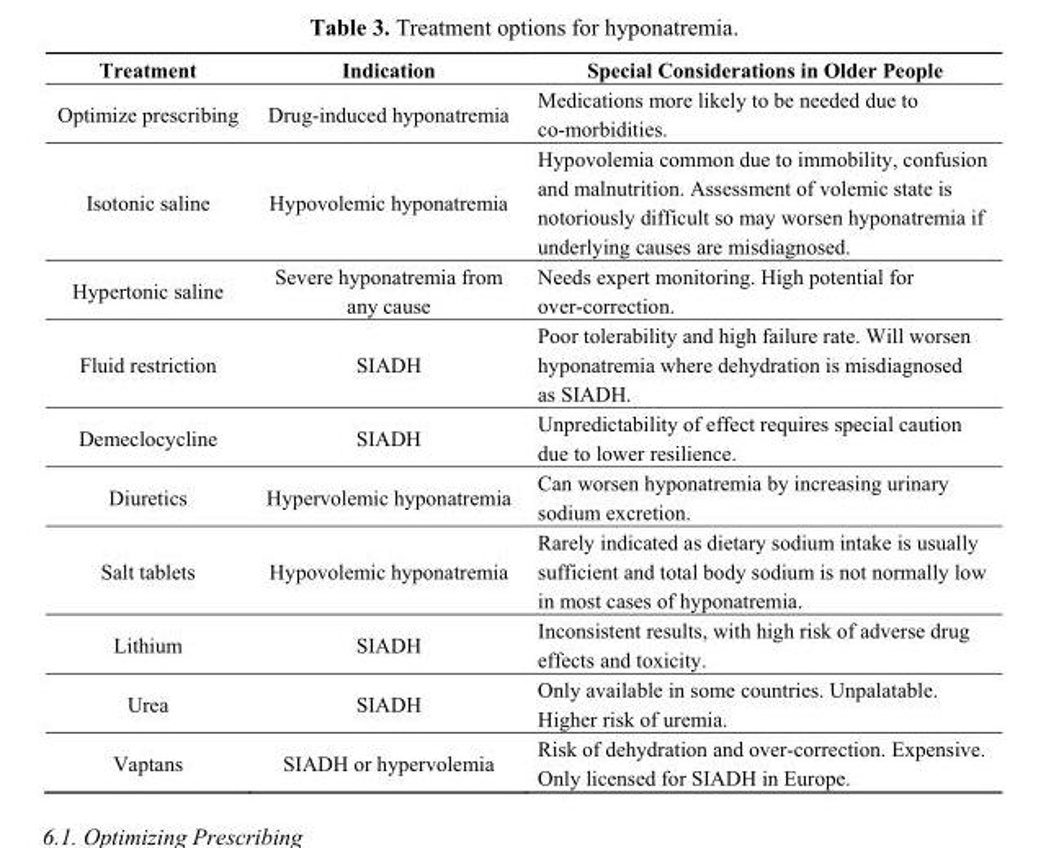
<table><thead><tr><td>Treatment</td><td>Indication</td><td>Special Considerations in Older People</td></tr></thead><tbody><tr><td>Optimize prescribing</td><td>Drug-induced hyponatremia</td><td>Medications more likely to be needed due to co-morbidities.</td></tr><tr><td>Isotonic saline</td><td>Hypovolemic hyponatremia</td><td>Hypovolemia common due to immobility, confusion and malnutrition. Assessment of volemic state is notoriously difficult so may worsen hyponatremia if underlying causes are misdiagnosed.</td></tr><tr><td>Hypertonic saline</td><td>Severe hyponatremia from any cause</td><td>Needs expert monitoring. High potential for over-correction.</td></tr><tr><td>Fluid restriction</td><td>SIADH</td><td>Poor tolerability and high failure rate. Will worsen hyponatremia where dehydration is misdiagnosed as SIADH.</td></tr><tr><td>Demeclocycline</td><td>SIADH</td><td>Unpredictability of effect requires special caution due to lower resilience.</td></tr><tr><td>Diuretics</td><td>Hypervolemic hyponatremia</td><td>Can worsen hyponatremia by increasing urinary sodium excretion.</td></tr><tr><td>Salt tablets</td><td>Hypovolemic hyponatremia</td><td>Rarely indicated as dietary sodium intake is usually sufficient and total body sodium is not normally low in most cases of hyponatremia.</td></tr><tr><td>Lithium</td><td>SIADH</td><td>Inconsistent results, with high risk of adverse drug effects and toxicity.</td></tr><tr><td>Urea</td><td>SIADH</td><td>Only available in some countries. Unpalatable. Higher risk of uremia.</td></tr><tr><td>Vaptans</td><td>SIADH or hypervolemia</td><td>Risk of dehydration and over-correction. Expensive. Only licensed for SIADH in Europe.</td></tr></tbody></table>